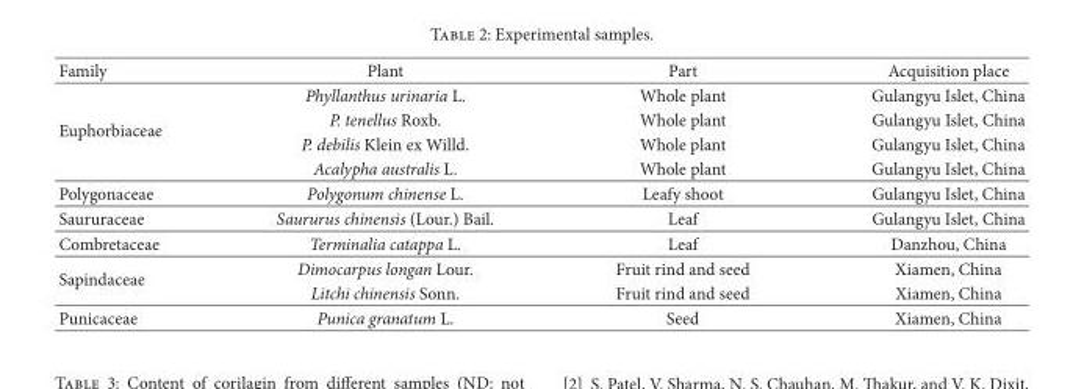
<table><thead><tr><td>Family</td><td>Plant</td><td>Part</td><td>Acquisition place</td></tr></thead><tbody><tr><td rowspan="4">Euphorbiaceae</td><td>Phyllanthus urinaria L.</td><td>Whole plant</td><td>Gulangyu Islet, China</td></tr><tr><td>P. tenellus Roxb.</td><td>Whole plant</td><td>Gulangyu Islet, China</td></tr><tr><td>P. debilis Klein ex Willd.</td><td>Whole plant</td><td>Gulangyu Islet, China</td></tr><tr><td>Acalypha australis L.</td><td>Whole plant</td><td>Gulangyu Islet, China</td></tr><tr><td>Polygonaceae</td><td>Polygonum chinense L.</td><td>Leafy shoot</td><td>Gulangyu Islet, China</td></tr><tr><td>Saururaceae</td><td>Saururus chinensis (Lour.) Bail.</td><td>Leaf</td><td>Gulangyu Islet, China</td></tr><tr><td>Combretaceae</td><td>Terminalia catappa L.</td><td>Leaf</td><td>Danzhou, China</td></tr><tr><td rowspan="2">Sapindaceae</td><td>Dimocarpus longan Lour.</td><td>Fruit rind and seed</td><td>Xiamen, China</td></tr><tr><td>Litchi chinensis Sonn.</td><td>Fruit rind and seed</td><td>Xiamen, China</td></tr><tr><td>Punicaceae</td><td>Punica granatum L.</td><td>Seed</td><td>Xiamen, China</td></tr></tbody></table>